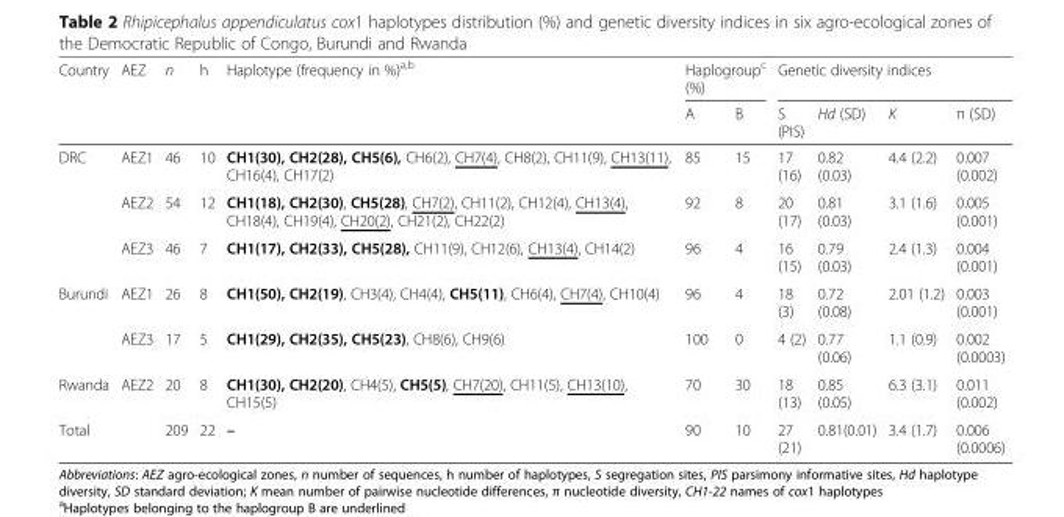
<table><thead><tr><td rowspan="2">Country</td><td rowspan="2">AEZ</td><td rowspan="2">n</td><td rowspan="2">h</td><td rowspan="2">Haplotype (frequency in %)<sup>a,b</sup></td><td colspan="2">Haplogroup<sup>c</sup> (%)</td><td colspan="4">Genetic diversity indices</td></tr><tr><td>A</td><td>B</td><td>S (PIS)</td><td>Hd (SD)</td><td>K</td><td>π (SD)</td></tr></thead><tbody><tr><td rowspan="3">DRC</td><td>AEZ1</td><td>46</td><td>10</td><td>CH1(30), CH2(28), CH5(6), CH6(2), CH7(4), CH8(2), CH11(9), CH13(11), CH16(4), CH17(2)</td><td>85</td><td>15</td><td>17 (16)</td><td>0.82 (0.03)</td><td>4.4 (2.2)</td><td>0.007 (0.002)</td></tr><tr><td>AEZ2</td><td>54</td><td>12</td><td>CH1(18), CH2(30), CH5(28), CH7(2), CH11(2), CH12(4), CH13(4), CH18(4), CH19(4), CH20(2), CH21(2), CH22(2)</td><td>92</td><td>8</td><td>20 (17)</td><td>0.81 (0.03)</td><td>3.1 (1.6)</td><td>0.005 (0.001)</td></tr><tr><td>AEZ3</td><td>46</td><td>7</td><td>CH1(17), CH2(33), CH5(28), CH11(9), CH12(6), CH13(4), CH14(2)</td><td>96</td><td>4</td><td>16 (15)</td><td>0.79 (0.03)</td><td>2.4 (1.3)</td><td>0.004 (0.001)</td></tr><tr><td rowspan="2">Burundi</td><td>AEZ1</td><td>26</td><td>8</td><td>CH1(50), CH2(19), CH3(4), CH4(4), CH5(11), CH6(4), CH7(4), CH10(4)</td><td>96</td><td>4</td><td>18 (3)</td><td>0.72 (0.08)</td><td>2.01 (1.2)</td><td>0.003 (0.001)</td></tr><tr><td>AEZ3</td><td>17</td><td>5</td><td>CH1(29), CH2(35), CH5(23), CH8(6), CH9(6)</td><td>100</td><td>0</td><td>4 (2)</td><td>0.77 (0.06)</td><td>1.1 (0.9)</td><td>0.002 (0.0003)</td></tr><tr><td>Rwanda</td><td>AEZ2</td><td>20</td><td>8</td><td>CH1(30), CH2(20), CH4(5), CH5(5), CH7(20), CH11(5), CH13(10), CH15(5)</td><td>70</td><td>30</td><td>18 (13)</td><td>0.85 (0.05)</td><td>6.3 (3.1)</td><td>0.011 (0.002)</td></tr><tr><td>Total</td><td></td><td>209</td><td>22</td><td>–</td><td>90</td><td>10</td><td>27 (21)</td><td>0.81(0.01)</td><td>3.4 (1.7)</td><td>0.006 (0.0006)</td></tr></tbody></table>